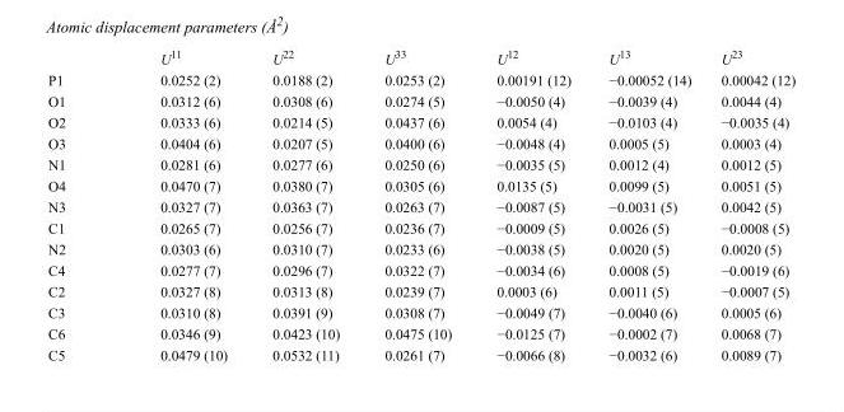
<table><thead><tr><td></td><td>U<sup>11</sup></td><td>U<sup>22</sup></td><td>U<sup>33</sup></td><td>U<sup>12</sup></td><td>U<sup>13</sup></td><td>U<sup>23</sup></td></tr></thead><tbody><tr><td>P1</td><td>0.0252 (2)</td><td>0.0188 (2)</td><td>0.0253 (2)</td><td>0.00191 (12)</td><td>−0.00052 (14)</td><td>0.00042 (12)</td></tr><tr><td>O1</td><td>0.0312 (6)</td><td>0.0308 (6)</td><td>0.0274 (5)</td><td>−0.0050 (4)</td><td>−0.0039 (4)</td><td>0.0044 (4)</td></tr><tr><td>O2</td><td>0.0333 (6)</td><td>0.0214 (5)</td><td>0.0437 (6)</td><td>0.0054 (4)</td><td>−0.0103 (4)</td><td>−0.0035 (4)</td></tr><tr><td>O3</td><td>0.0404 (6)</td><td>0.0207 (5)</td><td>0.0400 (6)</td><td>−0.0048 (4)</td><td>0.0005 (5)</td><td>0.0003 (4)</td></tr><tr><td>N1</td><td>0.0281 (6)</td><td>0.0277 (6)</td><td>0.0250 (6)</td><td>−0.0035 (5)</td><td>0.0012 (4)</td><td>0.0012 (5)</td></tr><tr><td>O4</td><td>0.0470 (7)</td><td>0.0380 (7)</td><td>0.0305 (6)</td><td>0.0135 (5)</td><td>0.0099 (5)</td><td>0.0051 (5)</td></tr><tr><td>N3</td><td>0.0327 (7)</td><td>0.0363 (7)</td><td>0.0263 (7)</td><td>−0.0087 (5)</td><td>−0.0031 (5)</td><td>0.0042 (5)</td></tr><tr><td>C1</td><td>0.0265 (7)</td><td>0.0256 (7)</td><td>0.0236 (7)</td><td>−0.0009 (5)</td><td>0.0026 (5)</td><td>−0.0008 (5)</td></tr><tr><td>N2</td><td>0.0303 (6)</td><td>0.0310 (7)</td><td>0.0233 (6)</td><td>−0.0038 (5)</td><td>0.0020 (5)</td><td>0.0020 (5)</td></tr><tr><td>C4</td><td>0.0277 (7)</td><td>0.0296 (7)</td><td>0.0322 (7)</td><td>−0.0034 (6)</td><td>0.0008 (5)</td><td>−0.0019 (6)</td></tr><tr><td>C2</td><td>0.0327 (8)</td><td>0.0313 (8)</td><td>0.0239 (7)</td><td>0.0003 (6)</td><td>0.0011 (5)</td><td>−0.0007 (5)</td></tr><tr><td>C3</td><td>0.0310 (8)</td><td>0.0391 (9)</td><td>0.0308 (7)</td><td>−0.0049 (7)</td><td>−0.0040 (6)</td><td>0.0005 (6)</td></tr><tr><td>C6</td><td>0.0346 (9)</td><td>0.0423 (10)</td><td>0.0475 (10)</td><td>−0.0125 (7)</td><td>−0.0002 (7)</td><td>0.0068 (7)</td></tr><tr><td>C5</td><td>0.0479 (10)</td><td>0.0532 (11)</td><td>0.0261 (7)</td><td>−0.0066 (8)</td><td>−0.0032 (6)</td><td>0.0089 (7)</td></tr></tbody></table>